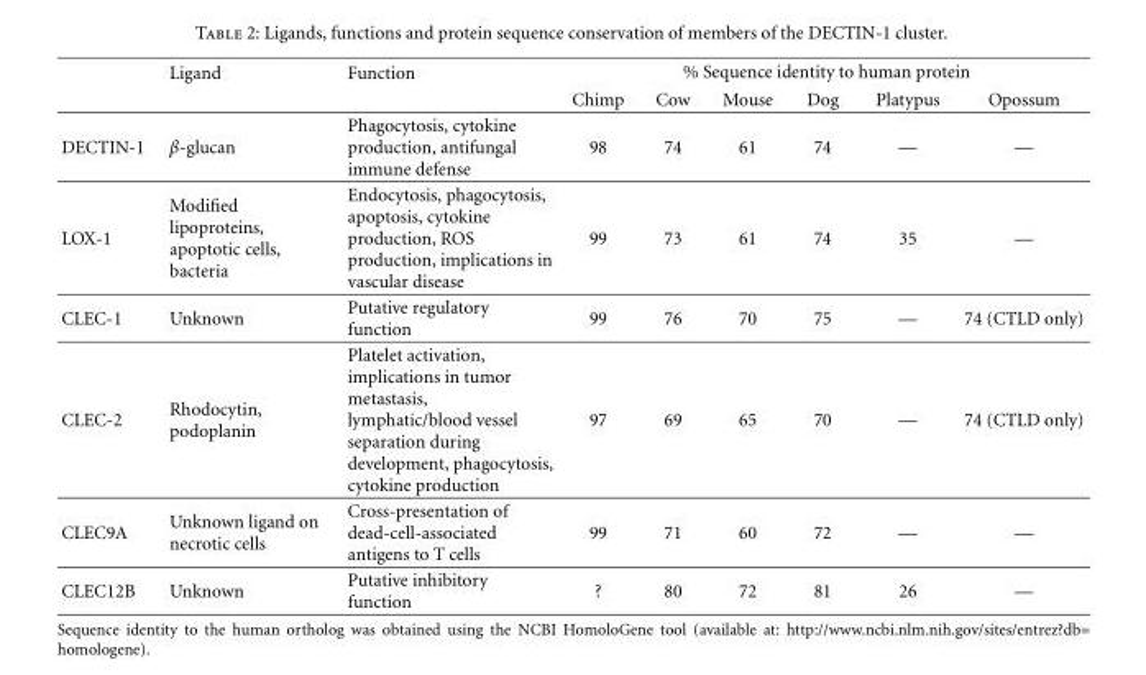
<table><thead><tr><td rowspan="2"></td><td rowspan="2">Ligand</td><td rowspan="2">Function</td><td colspan="6">% Sequence identity to human protein</td></tr><tr><td>Chimp</td><td>Cow</td><td>Mouse</td><td>Dog</td><td>Platypus</td><td>Opossum</td></tr></thead><tbody><tr><td>DECTIN-1</td><td>β-glucan</td><td>Phagocytosis, cytokine production, antifungal immune defense</td><td>98</td><td>74</td><td>61</td><td>74</td><td>—</td><td>—</td></tr><tr><td>LOX-1</td><td>Modified lipoproteins, apoptotic cells, bacteria</td><td>Endocytosis, phagocytosis, apoptosis, cytokine production, ROS production, implications in vascular disease</td><td>99</td><td>73</td><td>61</td><td>74</td><td>35</td><td>—</td></tr><tr><td>CLEC-1</td><td>Unknown</td><td>Putative regulatory function</td><td>99</td><td>76</td><td>70</td><td>75</td><td>—</td><td>74 (CTLD only)</td></tr><tr><td>CLEC-2</td><td>Rhodocytin, podoplanin</td><td>Platelet activation, implications in tumor metastasis, lymphatic/blood vessel separation during development, phagocytosis, cytokine production</td><td>97</td><td>69</td><td>65</td><td>70</td><td>—</td><td>74 (CTLD only)</td></tr><tr><td>CLEC9A</td><td>Unknown ligand on necrotic cells</td><td>Cross-presentation of dead-cell-associated antigens to T cells</td><td>99</td><td>71</td><td>60</td><td>72</td><td>—</td><td>—</td></tr><tr><td>CLEC12B</td><td>Unknown</td><td>Putative inhibitory function</td><td>?</td><td>80</td><td>72</td><td>81</td><td>26</td><td>—</td></tr></tbody></table>